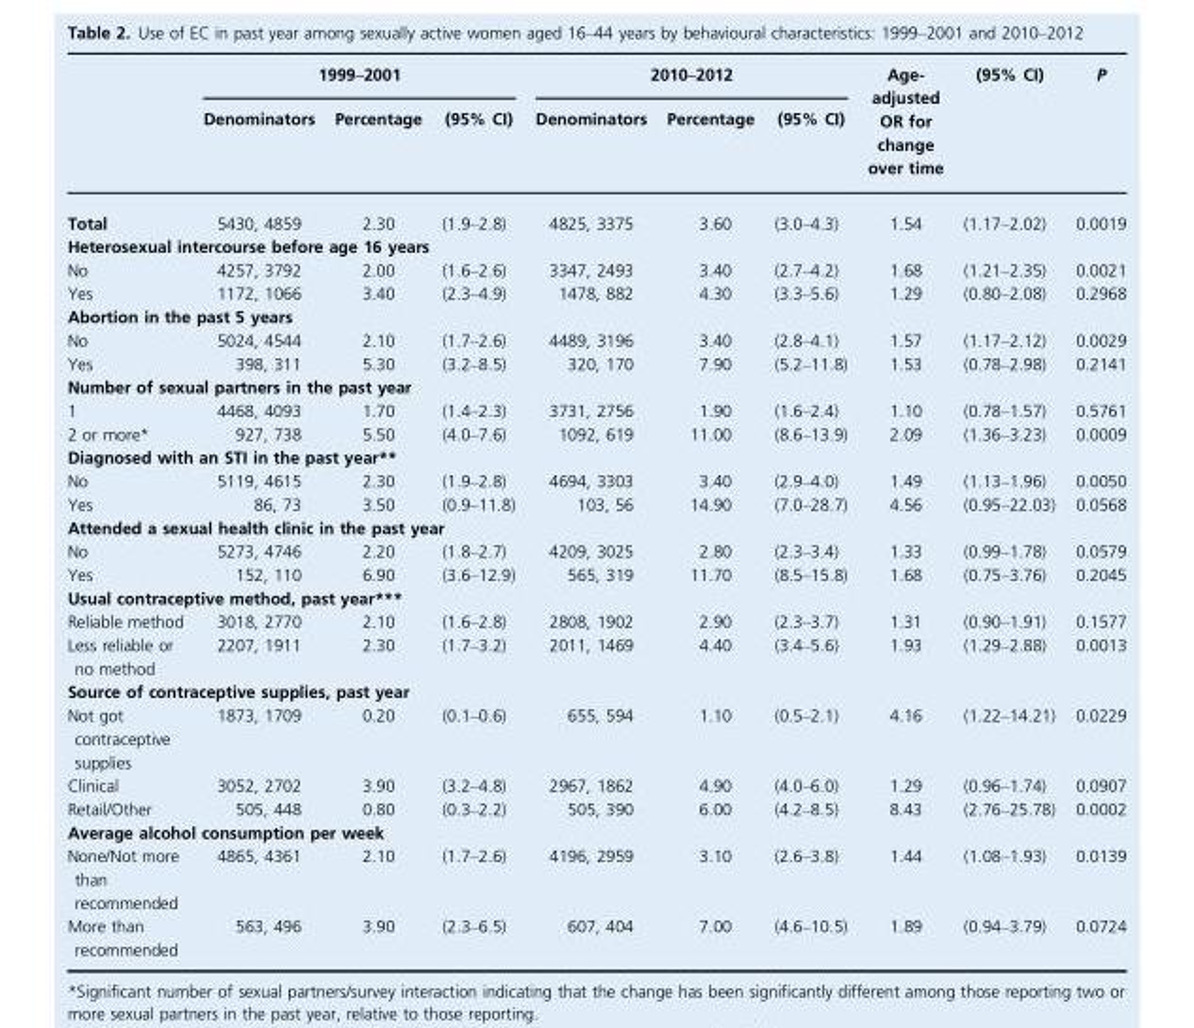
<table><thead><tr><td rowspan="2"></td><td colspan="3">1999–2001</td><td colspan="3">2010–2012</td><td rowspan="2">Age- adjusted OR for change over time</td><td rowspan="2">(95% CI)</td><td rowspan="2">P</td></tr><tr><td>Denominators</td><td>Percentage</td><td>(95% CI)</td><td>Denominators</td><td>Percentage</td><td>(95% CI)</td></tr></thead><tbody><tr><td>Total</td><td>5430, 4859</td><td>2.30</td><td>(1.9–2.8)</td><td>4825, 3375</td><td>3.60</td><td>(3.0–4.3)</td><td>1.54</td><td>(1.17–2.02)</td><td>0.0019</td></tr><tr><td colspan="10">Heterosexual intercourse before age 16 years</td></tr><tr><td>No</td><td>4257, 3792</td><td>2.00</td><td>(1.6–2.6)</td><td>3347, 2493</td><td>3.40</td><td>(2.7–4.2)</td><td>1.68</td><td>(1.21–2.35)</td><td>0.0021</td></tr><tr><td>Yes</td><td>1172, 1066</td><td>3.40</td><td>(2.3–4.9)</td><td>1478, 882</td><td>4.30</td><td>(3.3–5.6)</td><td>1.29</td><td>(0.80–2.08)</td><td>0.2968</td></tr><tr><td colspan="10">Abortion in the past 5 years</td></tr><tr><td>No</td><td>5024, 4544</td><td>2.10</td><td>(1.7–2.6)</td><td>4489, 3196</td><td>3.40</td><td>(2.8–4.1)</td><td>1.57</td><td>(1.17–2.12)</td><td>0.0029</td></tr><tr><td>Yes</td><td>398, 311</td><td>5.30</td><td>(3.2–8.5)</td><td>320, 170</td><td>7.90</td><td>(5.2–11.8)</td><td>1.53</td><td>(0.78–2.98)</td><td>0.2141</td></tr><tr><td colspan="10">Number of sexual partners in the past year</td></tr><tr><td>1</td><td>4468, 4093</td><td>1.70</td><td>(1.4–2.3)</td><td>3731, 2756</td><td>1.90</td><td>(1.6–2.4)</td><td>1.10</td><td>(0.78–1.57)</td><td>0.5761</td></tr><tr><td>2 or more*</td><td>927, 738</td><td>5.50</td><td>(4.0–7.6)</td><td>1092, 619</td><td>11.00</td><td>(8.6–13.9)</td><td>2.09</td><td>(1.36–3.23)</td><td>0.0009</td></tr><tr><td colspan="10">Diagnosed with an STI in the past year**</td></tr><tr><td>No</td><td>5119, 4615</td><td>2.30</td><td>(1.9–2.8)</td><td>4694, 3303</td><td>3.40</td><td>(2.9–4.0)</td><td>1.49</td><td>(1.13–1.96)</td><td>0.0050</td></tr><tr><td>Yes</td><td>86, 73</td><td>3.50</td><td>(0.9–11.8)</td><td>103, 56</td><td>14.90</td><td>(7.0–28.7)</td><td>4.56</td><td>(0.95–22.03)</td><td>0.0568</td></tr><tr><td colspan="10">Attended a sexual health clinic in the past year</td></tr><tr><td>No</td><td>5273, 4746</td><td>2.20</td><td>(1.8–2.7)</td><td>4209, 3025</td><td>2.80</td><td>(2.3–3.4)</td><td>1.33</td><td>(0.99–1.78)</td><td>0.0579</td></tr><tr><td>Yes</td><td>152, 110</td><td>6.90</td><td>(3.6–12.9)</td><td>565, 319</td><td>11.70</td><td>(8.5–15.8)</td><td>1.68</td><td>(0.75–3.76)</td><td>0.2045</td></tr><tr><td colspan="10">Usual contraceptive method, past year***</td></tr><tr><td>Reliable method</td><td>3018, 2770</td><td>2.10</td><td>(1.6–2.8)</td><td>2808, 1902</td><td>2.90</td><td>(2.3–3.7)</td><td>1.31</td><td>(0.90–1.91)</td><td>0.1577</td></tr><tr><td>Less reliable or no method</td><td>2207, 1911</td><td>2.30</td><td>(1.7–3.2)</td><td>2011, 1469</td><td>4.40</td><td>(3.4–5.6)</td><td>1.93</td><td>(1.29–2.88)</td><td>0.0013</td></tr><tr><td colspan="10">Source of contraceptive supplies, past year</td></tr><tr><td>Not got contraceptive supplies</td><td>1873, 1709</td><td>0.20</td><td>(0.1–0.6)</td><td>655, 594</td><td>1.10</td><td>(0.5–2.1)</td><td>4.16</td><td>(1.22–14.21)</td><td>0.0229</td></tr><tr><td>Clinical</td><td>3052, 2702</td><td>3.90</td><td>(3.2–4.8)</td><td>2967, 1862</td><td>4.90</td><td>(4.0–6.0)</td><td>1.29</td><td>(0.96–1.74)</td><td>0.0907</td></tr><tr><td>Retail/Other</td><td>505, 448</td><td>0.80</td><td>(0.3–2.2)</td><td>505, 390</td><td>6.00</td><td>(4.2–8.5)</td><td>8.43</td><td>(2.76–25.78)</td><td>0.0002</td></tr><tr><td colspan="10">Average alcohol consumption per week</td></tr><tr><td>None/Not more than recommended</td><td>4865, 4361</td><td>2.10</td><td>(1.7–2.6)</td><td>4196, 2959</td><td>3.10</td><td>(2.6–3.8)</td><td>1.44</td><td>(1.08–1.93)</td><td>0.0139</td></tr><tr><td>More than recommended</td><td>563, 496</td><td>3.90</td><td>(2.3–6.5)</td><td>607, 404</td><td>7.00</td><td>(4.6–10.5)</td><td>1.89</td><td>(0.94–3.79)</td><td>0.0724</td></tr></tbody></table>